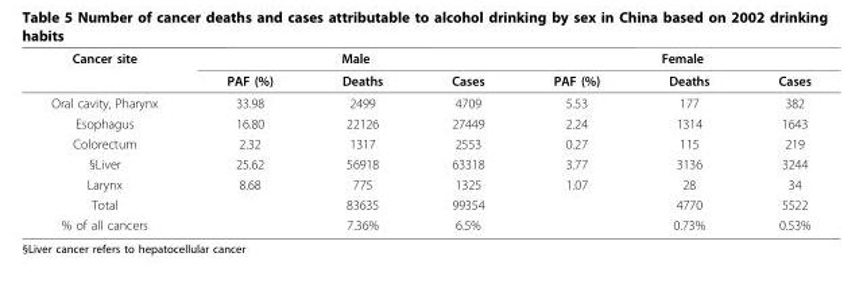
<table><thead><tr><td rowspan="2">Cancer site</td><td colspan="3">Male</td><td colspan="3">Female</td></tr><tr><td>PAF (%)</td><td>Deaths</td><td>Cases</td><td>PAF (%)</td><td>Deaths</td><td>Cases</td></tr></thead><tbody><tr><td>Oral cavity, Pharynx</td><td>33.98</td><td>2499</td><td>4709</td><td>5.53</td><td>177</td><td>382</td></tr><tr><td>Esophagus</td><td>16.80</td><td>22126</td><td>27449</td><td>2.24</td><td>1314</td><td>1643</td></tr><tr><td>Colorectum</td><td>2.32</td><td>1317</td><td>2553</td><td>0.27</td><td>115</td><td>219</td></tr><tr><td>§Liver</td><td>25.62</td><td>56918</td><td>63318</td><td>3.77</td><td>3136</td><td>3244</td></tr><tr><td>Larynx</td><td>8.68</td><td>775</td><td>1325</td><td>1.07</td><td>28</td><td>34</td></tr><tr><td>Total</td><td></td><td>83635</td><td>99354</td><td></td><td>4770</td><td>5522</td></tr><tr><td>% of all cancers</td><td></td><td>7.36%</td><td>6.5%</td><td></td><td>0.73%</td><td>0.53%</td></tr></tbody></table>